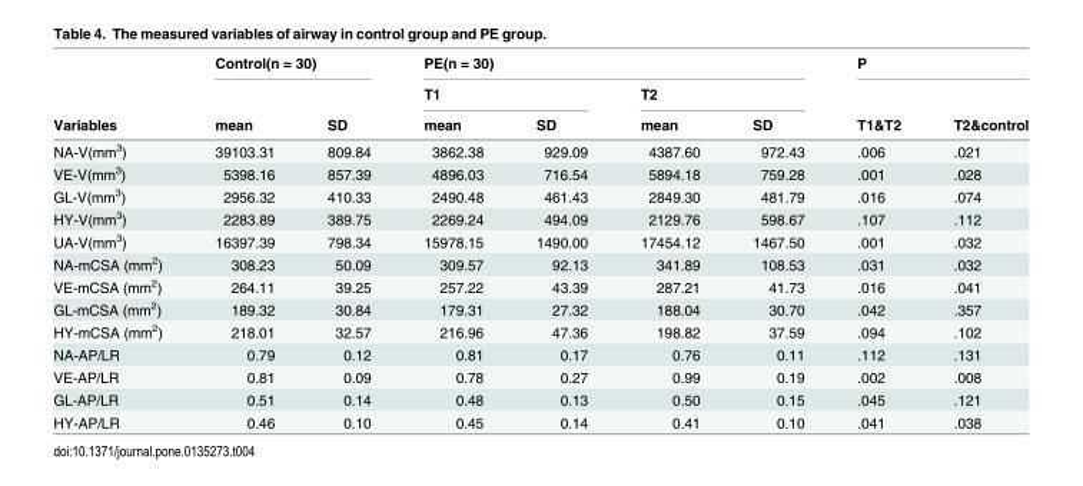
<table><thead><tr><td rowspan="3">Variables</td><td colspan="2">Control(n = 30)</td><td colspan="4">PE(n = 30)</td><td colspan="2">P</td></tr><tr><td rowspan="2">mean</td><td rowspan="2">SD</td><td colspan="2">T1</td><td colspan="2">T2</td><td rowspan="2">T1&amp;T2</td><td rowspan="2">T2&amp;control</td></tr><tr><td>mean</td><td>SD</td><td>mean</td><td>SD</td></tr></thead><tbody><tr><td>NA-V(mm<sup>3</sup>)</td><td>39103.31</td><td>809.84</td><td>3862.38</td><td>929.09</td><td>4387.60</td><td>972.43</td><td>.006</td><td>.021</td></tr><tr><td>VE-V(mm<sup>3</sup>)</td><td>5398.16</td><td>857.39</td><td>4896.03</td><td>716.54</td><td>5894.18</td><td>759.28</td><td>.001</td><td>.028</td></tr><tr><td>GL-V(mm<sup>3</sup>)</td><td>2956.32</td><td>410.33</td><td>2490.48</td><td>461.43</td><td>2849.30</td><td>481.79</td><td>.016</td><td>.074</td></tr><tr><td>HY-V(mm<sup>3</sup>)</td><td>2283.89</td><td>389.75</td><td>2269.24</td><td>494.09</td><td>2129.76</td><td>598.67</td><td>.107</td><td>.112</td></tr><tr><td>UA-V(mm<sup>3</sup>)</td><td>16397.39</td><td>798.34</td><td>15978.15</td><td>1490.00</td><td>17454.12</td><td>1467.50</td><td>.001</td><td>.032</td></tr><tr><td>NA-mCSA (mm<sup>2</sup>)</td><td>308.23</td><td>50.09</td><td>309.57</td><td>92.13</td><td>341.89</td><td>108.53</td><td>.031</td><td>.032</td></tr><tr><td>VE-mCSA (mm<sup>2</sup>)</td><td>264.11</td><td>39.25</td><td>257.22</td><td>43.39</td><td>287.21</td><td>41.73</td><td>.016</td><td>.041</td></tr><tr><td>GL-mCSA (mm<sup>2</sup>)</td><td>189.32</td><td>30.84</td><td>179.31</td><td>27.32</td><td>188.04</td><td>30.70</td><td>.042</td><td>.357</td></tr><tr><td>HY-mCSA (mm<sup>2</sup>)</td><td>218.01</td><td>32.57</td><td>216.96</td><td>47.36</td><td>198.82</td><td>37.59</td><td>.094</td><td>.102</td></tr><tr><td>NA-AP/LR</td><td>0.79</td><td>0.12</td><td>0.81</td><td>0.17</td><td>0.76</td><td>0.11</td><td>.112</td><td>.131</td></tr><tr><td>VE-AP/LR</td><td>0.81</td><td>0.09</td><td>0.78</td><td>0.27</td><td>0.99</td><td>0.19</td><td>.002</td><td>.008</td></tr><tr><td>GL-AP/LR</td><td>0.51</td><td>0.14</td><td>0.48</td><td>0.13</td><td>0.50</td><td>0.15</td><td>.045</td><td>.121</td></tr><tr><td>HY-AP/LR</td><td>0.46</td><td>0.10</td><td>0.45</td><td>0.14</td><td>0.41</td><td>0.10</td><td>.041</td><td>.038</td></tr></tbody></table>